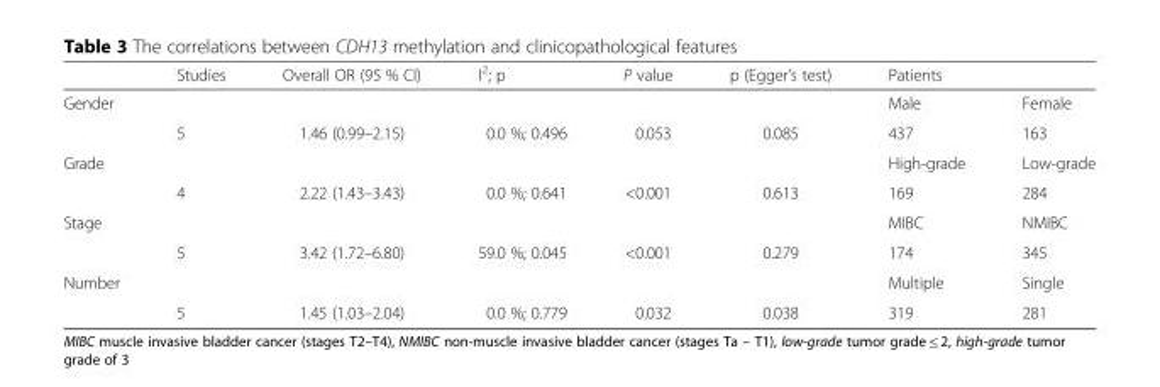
<table><thead><tr><td rowspan="2">Gender</td><td rowspan="2">Studies</td><td rowspan="2">Overall OR (95 % CI)</td><td rowspan="2">I<sup>2</sup>; p</td><td rowspan="2">P value</td><td rowspan="2">p (Egger’s test)</td><td colspan="2">Patients</td></tr><tr><td>Male</td><td>Female</td></tr></thead><tbody><tr><td></td><td>5</td><td>1.46 (0.99–2.15)</td><td>0.0 %; 0.496</td><td>0.053</td><td>0.085</td><td>437</td><td>163</td></tr><tr><td rowspan="2">Grade</td><td></td><td></td><td></td><td></td><td></td><td>High-grade</td><td>Low-grade</td></tr><tr><td>4</td><td>2.22 (1.43–3.43)</td><td>0.0 %; 0.641</td><td>&lt;0.001</td><td>0.613</td><td>169</td><td>284</td></tr><tr><td rowspan="2">Stage</td><td></td><td></td><td></td><td></td><td></td><td>MIBC</td><td>NMIBC</td></tr><tr><td>5</td><td>3.42 (1.72–6.80)</td><td>59.0 %; 0.045</td><td>&lt;0.001</td><td>0.279</td><td>174</td><td>345</td></tr><tr><td rowspan="2">Number</td><td></td><td></td><td></td><td></td><td></td><td>Multiple</td><td>Single</td></tr><tr><td>5</td><td>1.45 (1.03–2.04)</td><td>0.0 %; 0.779</td><td>0.032</td><td>0.038</td><td>319</td><td>281</td></tr></tbody></table>